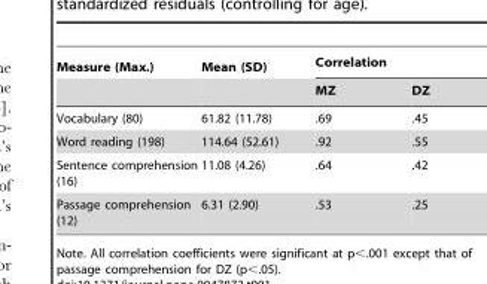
<table><thead><tr><td rowspan="2">Measure (Max.)</td><td rowspan="2">Mean (SD)</td><td colspan="2">Correlation</td></tr><tr><td>MZ</td><td>DZ</td></tr></thead><tbody><tr><td>Vocabulary (80)</td><td>61.82 (11.78)</td><td>.69</td><td>.45</td></tr><tr><td>Word reading (198)</td><td>114.64 (52.61)</td><td>.92</td><td>.55</td></tr><tr><td>Sentence comprehension (16)</td><td>11.08 (4.26)</td><td>.64</td><td>.42</td></tr><tr><td>Passage comprehension (12)</td><td>6.31 (2.90)</td><td>.53</td><td>.25</td></tr></tbody></table>